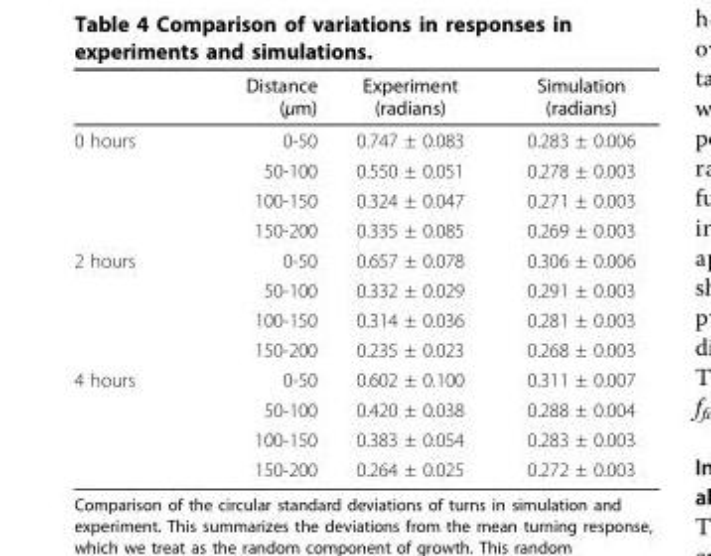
<table><thead><tr><td></td><td>Distance (μm)</td><td>Experiment (radians)</td><td>Simulation (radians)</td></tr></thead><tbody><tr><td rowspan="4">0 hours</td><td>0-50</td><td>0.747 ± 0.083</td><td>0.283 ± 0.006</td></tr><tr><td>50-100</td><td>0.550 ± 0.051</td><td>0.278 ± 0.003</td></tr><tr><td>100-150</td><td>0.324 ± 0.047</td><td>0.271 ± 0.003</td></tr><tr><td>150-200</td><td>0.335 ± 0.085</td><td>0.269 ± 0.003</td></tr><tr><td rowspan="4">2 hours</td><td>0-50</td><td>0.657 ± 0.078</td><td>0.306 ± 0.006</td></tr><tr><td>50-100</td><td>0.332 ± 0.029</td><td>0.291 ± 0.003</td></tr><tr><td>100-150</td><td>0.314 ± 0.036</td><td>0.281 ± 0.003</td></tr><tr><td>150-200</td><td>0.235 ± 0.023</td><td>0.268 ± 0.003</td></tr><tr><td rowspan="4">4 hours</td><td>0-50</td><td>0.602 ± 0.100</td><td>0.311 ± 0.007</td></tr><tr><td>50-100</td><td>0.420 ± 0.038</td><td>0.288 ± 0.004</td></tr><tr><td>100-150</td><td>0.383 ± 0.054</td><td>0.283 ± 0.003</td></tr><tr><td>150-200</td><td>0.264 ± 0.025</td><td>0.272 ± 0.003</td></tr></tbody></table>